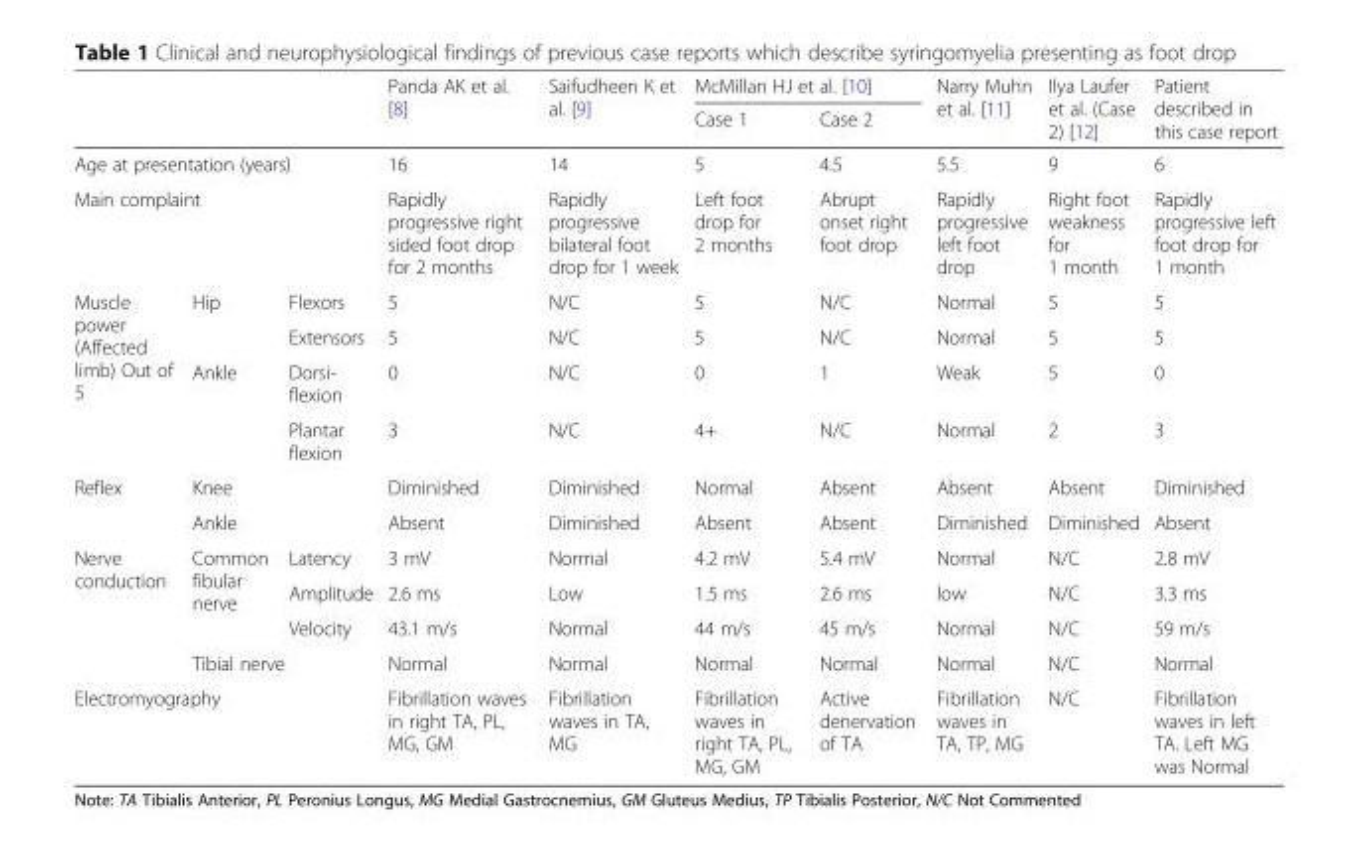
<table><thead><tr><td rowspan="2"></td><td rowspan="2"></td><td rowspan="2"></td><td rowspan="2">Panda AK et al. [8]</td><td rowspan="2">Saifudheen K et al. [9]</td><td colspan="2">McMillan HJ et al. [10]</td><td rowspan="2">Narry Muhn et al. [11]</td><td rowspan="2">Ilya Laufer et al. (Case 2) [12]</td><td rowspan="2">Patient described in this case report</td></tr><tr><td>Case 1</td><td>Case 2</td></tr></thead><tbody><tr><td colspan="3">Age at presentation (years)</td><td>16</td><td>14</td><td>5</td><td>4.5</td><td>5.5</td><td>9</td><td>6</td></tr><tr><td colspan="3">Main complaint</td><td>Rapidly progressive right sided foot drop for 2 months</td><td>Rapidly progressive bilateral foot drop for 1 week</td><td>Left foot drop for 2 months</td><td>Abrupt onset right foot drop</td><td>Rapidly progressive left foot drop</td><td>Right foot weakness for 1 month</td><td>Rapidly progressive left foot drop for 1 month</td></tr><tr><td rowspan="4">Muscle power (Affected limb) Out of 5</td><td rowspan="2">Hip</td><td>Flexors</td><td>5</td><td>N/C</td><td>5</td><td>N/C</td><td>Normal</td><td>5</td><td>5</td></tr><tr><td>Extensors</td><td>5</td><td>N/C</td><td>5</td><td>N/C</td><td>Normal</td><td>5</td><td>5</td></tr><tr><td rowspan="2">Ankle</td><td>Dorsi- flexion</td><td>0</td><td>N/C</td><td>0</td><td>1</td><td>Weak</td><td>5</td><td>0</td></tr><tr><td>Plantar flexion</td><td>3</td><td>N/C</td><td>4+</td><td>N/C</td><td>Normal</td><td>2</td><td>3</td></tr><tr><td rowspan="2">Reflex</td><td colspan="2">Knee</td><td>Diminished</td><td>Diminished</td><td>Normal</td><td>Absent</td><td>Absent</td><td>Absent</td><td>Diminished</td></tr><tr><td colspan="2">Ankle</td><td>Absent</td><td>Diminished</td><td>Absent</td><td>Absent</td><td>Diminished</td><td>Diminished</td><td>Absent</td></tr><tr><td rowspan="4">Nerve conduction</td><td rowspan="3">Common fibular nerve</td><td>Latency</td><td>3 mV</td><td>Normal</td><td>4.2 mV</td><td>5.4 mV</td><td>Normal</td><td>N/C</td><td>2.8 mV</td></tr><tr><td>Amplitude</td><td>2.6 ms</td><td>Low</td><td>1.5 ms</td><td>2.6 ms</td><td>low</td><td>N/C</td><td>3.3 ms</td></tr><tr><td>Velocity</td><td>43.1 m/s</td><td>Normal</td><td>44 m/s</td><td>45 m/s</td><td>Normal</td><td>N/C</td><td>59 m/s</td></tr><tr><td colspan="2">Tibial nerve</td><td>Normal</td><td>Normal</td><td>Normal</td><td>Normal</td><td>Normal</td><td>N/C</td><td>Normal</td></tr><tr><td colspan="3">Electromyography</td><td>Fibrillation waves in right TA, PL, MG, GM</td><td>Fibrillation waves in TA, MG</td><td>Fibrillation waves in right TA, PL, MG, GM</td><td>Active denervation of TA</td><td>Fibrillation waves in TA, TP, MG</td><td>N/C</td><td>Fibrillation waves in left TA. Left MG was Normal</td></tr></tbody></table>